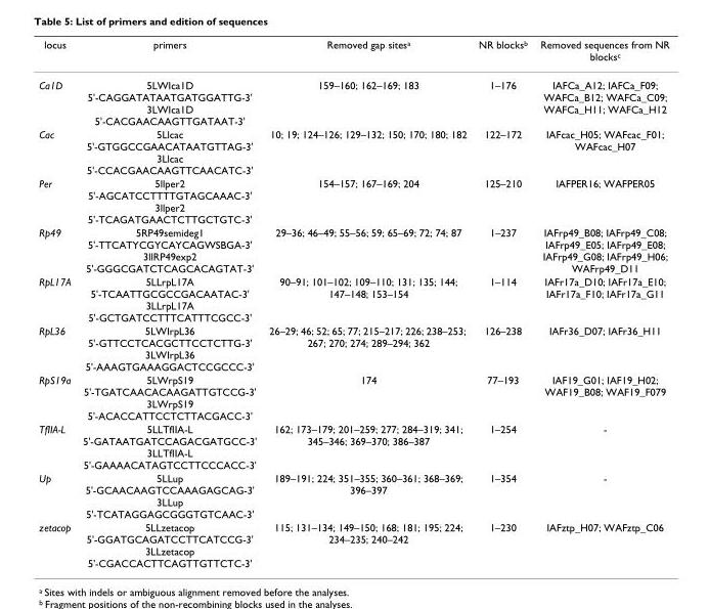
<table><thead><tr><td>locus</td><td>primers</td><td>Removed gap sites<sup>a</sup></td><td>NR blocks<sup>b</sup></td><td>Removed sequences from NR blocks<sup>c</sup></td></tr></thead><tbody><tr><td>Ca1D</td><td>5LWIca1D 5&#x27;-CAGGATATAATGATGGATTG-3&#x27; 3LWIca1D 5&#x27;-CACGAACAAGTTGATAAT-3&#x27;</td><td>159–160; 162–169; 183</td><td>1–176</td><td>IAFCa_A12; IAFCa_F09; WAFCa_B12; WAFCa_C09; WAFCa_H11; WAFCa_H12</td></tr><tr><td>Cac</td><td>5Llcac 5&#x27;-GTGGCCGAACATAATGTTAG-3&#x27; 3Llcac 5&#x27;-CCACGAACAAGTTCAACATC-3&#x27;</td><td>10; 19; 124–126; 129–132; 150; 170; 180; 182</td><td>122–172</td><td>IAFcac_H05; WAFcac_F01; WAFcac_H07</td></tr><tr><td>Per</td><td>5llper2 5&#x27;-AGCATCCTTTTGTAGCAAAC-3&#x27; 3llper2 5&#x27;-TCAGATGAACTCTTGCTGTC-3&#x27;</td><td>154–157; 167–169; 204</td><td>125–210</td><td>IAFPER16; WAFPER05</td></tr><tr><td>Rp49</td><td>5RP49semideg1 5&#x27;-TTCATYCGYCAYCAGWSBGA-3&#x27; 3llRP49exp2 5&#x27;-GGGCGATCTCAGCACAGTAT-3&#x27;</td><td>29–36; 46–49; 55–56; 59; 65–69; 72; 74; 87</td><td>1–237</td><td>IAFrp49_B08; IAFrp49_C08; IAFrp49_E05; IAFrp49_E08; IAFrp49_G08; IAFrp49_H06; WAFrp49_D11</td></tr><tr><td>RpL17A</td><td>5LLrpL17A 5&#x27;-TCAATTGCGCCGACAATAC-3&#x27; 3LLrpL17A 5&#x27;-GCTGATCCTTTCATTTCGCC-3&#x27;</td><td>90–91; 101–102; 109–110; 131; 135; 144; 147–148; 153–154</td><td>1–114</td><td>IAFr17a_D10; IAFr17a_E10; IAFr17a_F10; IAFr17a_G11</td></tr><tr><td>RpL36</td><td>5LWIrpL36 5&#x27;-GTTCCTCACGCTTCCTCTTG-3&#x27; 3LWIrpL36 5&#x27;-AAAGTGAAAGGACTCCGCCC-3&#x27;</td><td>26–29; 46; 52; 65; 77; 215–217; 226; 238–253; 267; 270; 274; 289–294; 362</td><td>126–238</td><td>IAFr36_D07; IAFr36_H11</td></tr><tr><td>RpS19a</td><td>5LWrpS19 5&#x27;-TGATCAACACAAGATTGTCCG-3&#x27; 3LWrpS19 5&#x27;-ACACCATTCCTCTTACGACC-3&#x27;</td><td>174</td><td>77–193</td><td>IAF19_G01; IAF19_H02; WAF19_B08; WAF19_F079</td></tr><tr><td>TfIIA-L</td><td>5LLTfIIA-L 5&#x27;-GATAATGATCCAGACGATGCC-3&#x27; 3LLTfIIA-L 5&#x27;-GAAAACATAGTCCTTCCCACC-3&#x27;</td><td>162; 173–179; 201–259; 277; 284–319; 341; 345–346; 369–370; 386–387</td><td>1–254</td><td>-</td></tr><tr><td>Up</td><td>5LLup 5&#x27;-GCAACAAGTCCAAAGAGCAG-3&#x27; 3LLup 5&#x27;-TCATAGGAGCGGGTGTCAAC-3&#x27;</td><td>189–191; 224; 351–355; 360–361; 368–369; 396–397</td><td>1–354</td><td>-</td></tr><tr><td>zetacop</td><td>5LLzetacop 5&#x27;-GGATGCAGATCCTTCATCCG-3&#x27; 3LLzetacop 5&#x27;-CGACCACTTCAGTTGTTCTC-3&#x27;</td><td>115; 131–134; 149–150; 168; 181; 195; 224; 234–235; 240–242</td><td>1–230</td><td>IAFztp_H07; WAFztp_C06</td></tr></tbody></table>